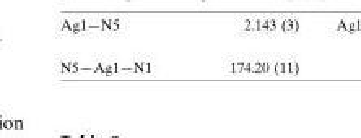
<table><tbody><tr><td>N5—Ag1—N1</td><td>174.20 (11)</td></tr></tbody></table>